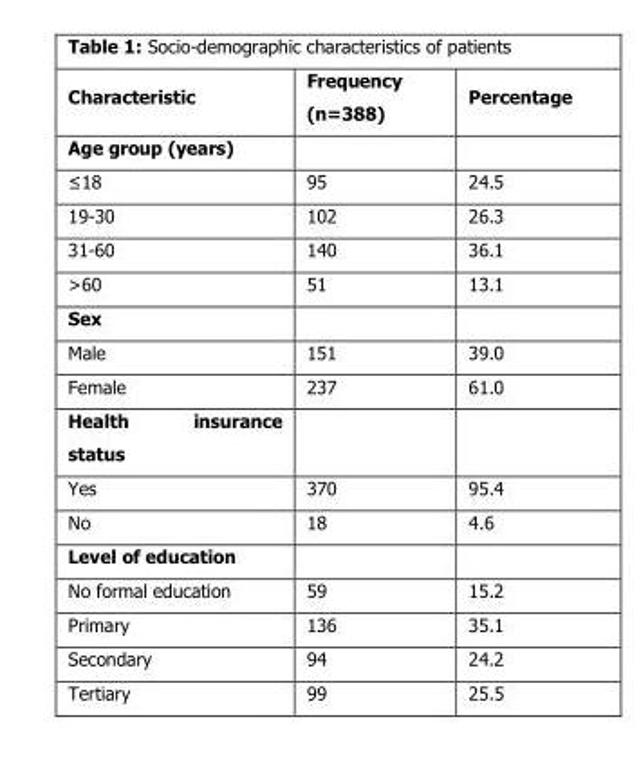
<table><thead><tr><td>Characteristic</td><td>Frequency (n=388)</td><td>Percentage</td></tr></thead><tbody><tr><td colspan="3">Age group (years)</td></tr><tr><td>≤18</td><td>95</td><td>24.5</td></tr><tr><td>19-30</td><td>102</td><td>26.3</td></tr><tr><td>31-60</td><td>140</td><td>36.1</td></tr><tr><td>&gt;60</td><td>51</td><td>13.1</td></tr><tr><td colspan="3">Sex</td></tr><tr><td>Male</td><td>151</td><td>39.0</td></tr><tr><td>Female</td><td>237</td><td>61.0</td></tr><tr><td colspan="3">Health insurance status</td></tr><tr><td>Yes</td><td>370</td><td>95.4</td></tr><tr><td>No</td><td>18</td><td>4.6</td></tr><tr><td colspan="3">Level of education</td></tr><tr><td>No formal education</td><td>59</td><td>15.2</td></tr><tr><td>Primary</td><td>136</td><td>35.1</td></tr><tr><td>Secondary</td><td>94</td><td>24.2</td></tr><tr><td>Tertiary</td><td>99</td><td>25.5</td></tr></tbody></table>